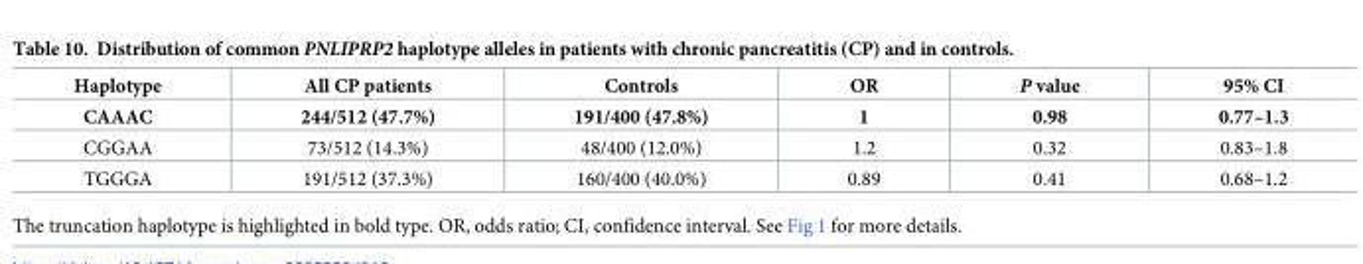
<table><thead><tr><td>Haplotype</td><td>All CP patients</td><td>Controls</td><td>OR</td><td>P value</td><td>95% CI</td></tr></thead><tbody><tr><td>CAAAC</td><td>244/512 (47.7%)</td><td>191/400 (47.8%)</td><td>1</td><td>0.98</td><td>0.77–1.3</td></tr><tr><td>CGGAA</td><td>73/512 (14.3%)</td><td>48/400 (12.0%)</td><td>1.2</td><td>0.32</td><td>0.83–1.8</td></tr><tr><td>TGGGA</td><td>191/512 (37.3%)</td><td>160/400 (40.0%)</td><td>0.89</td><td>0.41</td><td>0.68–1.2</td></tr></tbody></table>